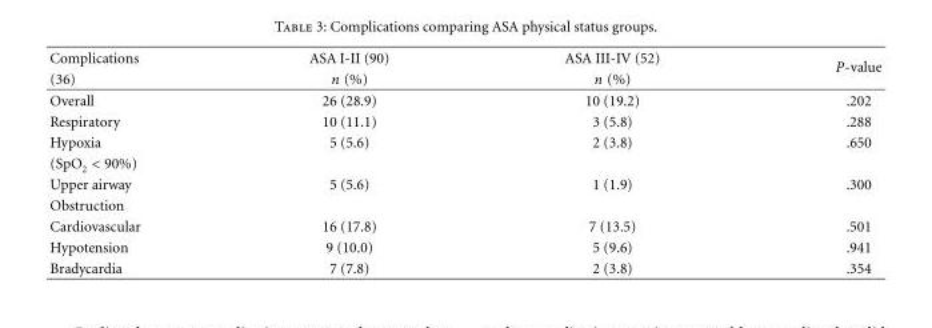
<table><thead><tr><td rowspan="2">Complications (36)</td><td rowspan="2">ASA I-II (90) n (%)</td><td rowspan="2">ASA III-IV (52) n (%)</td><td rowspan="2">P-value</td></tr><tr></tr></thead><tbody><tr><td>Overall</td><td>26 (28.9)</td><td>10 (19.2)</td><td>.202</td></tr><tr><td>Respiratory</td><td>10 (11.1)</td><td>3 (5.8)</td><td>.288</td></tr><tr><td>Hypoxia</td><td>5 (5.6)</td><td>2 (3.8)</td><td>.650</td></tr><tr><td colspan="4">(SpO<sub>2</sub> &lt; 90%)</td></tr><tr><td>Upper airway</td><td>5 (5.6)</td><td>1 (1.9)</td><td>.300</td></tr><tr><td colspan="4">Obstruction</td></tr><tr><td>Cardiovascular</td><td>16 (17.8)</td><td>7 (13.5)</td><td>.501</td></tr><tr><td>Hypotension</td><td>9 (10.0)</td><td>5 (9.6)</td><td>.941</td></tr><tr><td>Bradycardia</td><td>7 (7.8)</td><td>2 (3.8)</td><td>.354</td></tr></tbody></table>